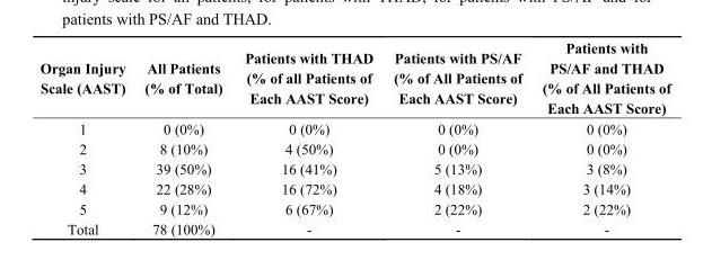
<table><thead><tr><td>Organ Injury Scale (AAST)</td><td>All Patients (% of Total)</td><td>Patients with THAD (% of all Patients of Each AAST Score)</td><td>Patients with PS/AF (% of All Patients of Each AAST Score)</td><td>Patients with PS/AF and THAD (% of All Patients of Each AAST Score)</td></tr></thead><tbody><tr><td>1</td><td>0 (0%)</td><td>0 (0%)</td><td>0 (0%)</td><td>0 (0%)</td></tr><tr><td>2</td><td>8 (10%)</td><td>4 (50%)</td><td>0 (0%)</td><td>0 (0%)</td></tr><tr><td>3</td><td>39 (50%)</td><td>16 (41%)</td><td>5 (13%)</td><td>3 (8%)</td></tr><tr><td>4</td><td>22 (28%)</td><td>16 (72%)</td><td>4 (18%)</td><td>3 (14%)</td></tr><tr><td>5</td><td>9 (12%)</td><td>6 (67%)</td><td>2 (22%)</td><td>2 (22%)</td></tr><tr><td>Total</td><td>78 (100%)</td><td>-</td><td>-</td><td>-</td></tr></tbody></table>